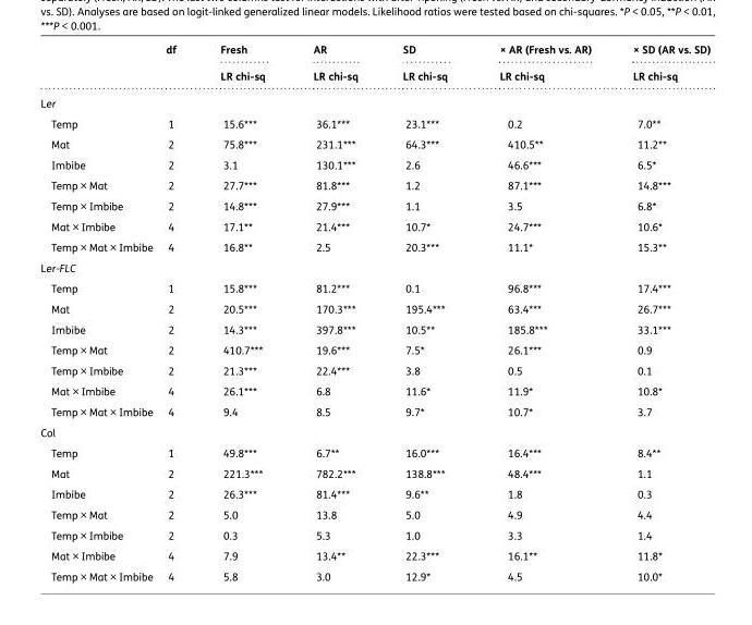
<table><thead><tr><td rowspan="2"></td><td rowspan="2">df</td><td rowspan="2">Fresh LR chi-sq</td><td rowspan="2">AR LR chi-sq</td><td rowspan="2">SD LR chi-sq</td><td rowspan="2">× AR (Fresh vs. AR) LR chi-sq</td><td rowspan="2">× SD (AR vs. SD) LR chi-sq</td></tr><tr></tr></thead><tbody><tr><td colspan="7">Ler</td></tr><tr><td>Temp</td><td>1</td><td>15.6***</td><td>36.1***</td><td>23.1***</td><td>0.2</td><td>7.0**</td></tr><tr><td>Mat</td><td>2</td><td>75.8***</td><td>231.1***</td><td>64.3***</td><td>410.5**</td><td>11.2**</td></tr><tr><td>Imbibe</td><td>2</td><td>3.1</td><td>130.1***</td><td>2.6</td><td>46.6***</td><td>6.5*</td></tr><tr><td>Temp × Mat</td><td>2</td><td>27.7***</td><td>81.8***</td><td>1.2</td><td>87.1***</td><td>14.8***</td></tr><tr><td>Temp × Imbibe</td><td>2</td><td>14.8***</td><td>27.9***</td><td>1.1</td><td>3.5</td><td>6.8*</td></tr><tr><td>Mat × Imbibe</td><td>4</td><td>17.1**</td><td>21.4***</td><td>10.7*</td><td>24.7***</td><td>10.6*</td></tr><tr><td>Temp × Mat × Imbibe</td><td>4</td><td>16.8**</td><td>2.5</td><td>20.3***</td><td>11.1*</td><td>15.3**</td></tr><tr><td colspan="7">Ler-FLC</td></tr><tr><td>Temp</td><td>1</td><td>15.8***</td><td>81.2***</td><td>0.1</td><td>96.8***</td><td>17.4***</td></tr><tr><td>Mat</td><td>2</td><td>20.5***</td><td>170.3***</td><td>195.4***</td><td>63.4***</td><td>26.7***</td></tr><tr><td>Imbibe</td><td>2</td><td>14.3***</td><td>397.8***</td><td>10.5**</td><td>185.8***</td><td>33.1***</td></tr><tr><td>Temp × Mat</td><td>2</td><td>410.7***</td><td>19.6***</td><td>7.5*</td><td>26.1***</td><td>0.9</td></tr><tr><td>Temp × Imbibe</td><td>2</td><td>21.3***</td><td>22.4***</td><td>3.8</td><td>0.5</td><td>0.1</td></tr><tr><td>Mat × Imbibe</td><td>4</td><td>26.1***</td><td>6.8</td><td>11.6*</td><td>11.9*</td><td>10.8*</td></tr><tr><td>Temp × Mat × Imbibe</td><td>4</td><td>9.4</td><td>8.5</td><td>9.7*</td><td>10.7*</td><td>3.7</td></tr><tr><td colspan="7">Col</td></tr><tr><td>Temp</td><td>1</td><td>49.8***</td><td>6.7**</td><td>16.0***</td><td>16.4***</td><td>8.4**</td></tr><tr><td>Mat</td><td>2</td><td>221.3***</td><td>782.2***</td><td>138.8***</td><td>48.4***</td><td>1.1</td></tr><tr><td>Imbibe</td><td>2</td><td>26.3***</td><td>81.4***</td><td>9.6**</td><td>1.8</td><td>0.3</td></tr><tr><td>Temp × Mat</td><td>2</td><td>5.0</td><td>13.8</td><td>5.0</td><td>4.9</td><td>4.4</td></tr><tr><td>Temp × Imbibe</td><td>2</td><td>0.3</td><td>5.3</td><td>1.0</td><td>3.3</td><td>1.4</td></tr><tr><td>Mat × Imbibe</td><td>4</td><td>7.9</td><td>13.4**</td><td>22.3***</td><td>16.1**</td><td>11.8*</td></tr><tr><td>Temp × Mat × Imbibe</td><td>4</td><td>5.8</td><td>3.0</td><td>12.9*</td><td>4.5</td><td>10.0*</td></tr></tbody></table>